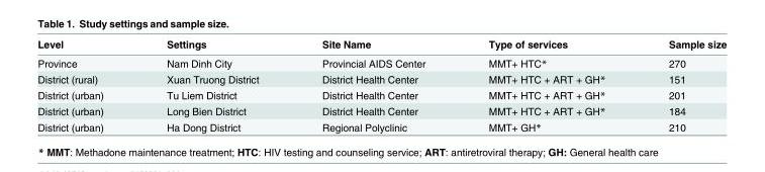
<table><thead><tr><td>Level</td><td>Settings</td><td>Site Name</td><td>Type of services</td><td>Sample size</td></tr></thead><tbody><tr><td>Province</td><td>Nam Dinh City</td><td>Provincial AIDS Center</td><td>MMT+ HTC*</td><td>270</td></tr><tr><td>District (rural)</td><td>Xuan Truong District</td><td>District Health Center</td><td>MMT+ HTC + ART + GH*</td><td>151</td></tr><tr><td>District (urban)</td><td>Tu Liem District</td><td>District Health Center</td><td>MMT+ HTC + ART + GH*</td><td>201</td></tr><tr><td>District (urban)</td><td>Long Bien District</td><td>District Health Center</td><td>MMT+ HTC + ART + GH*</td><td>184</td></tr><tr><td>District (urban)</td><td>Ha Dong District</td><td>Regional Polyclinic</td><td>MMT+ GH*</td><td>210</td></tr></tbody></table>